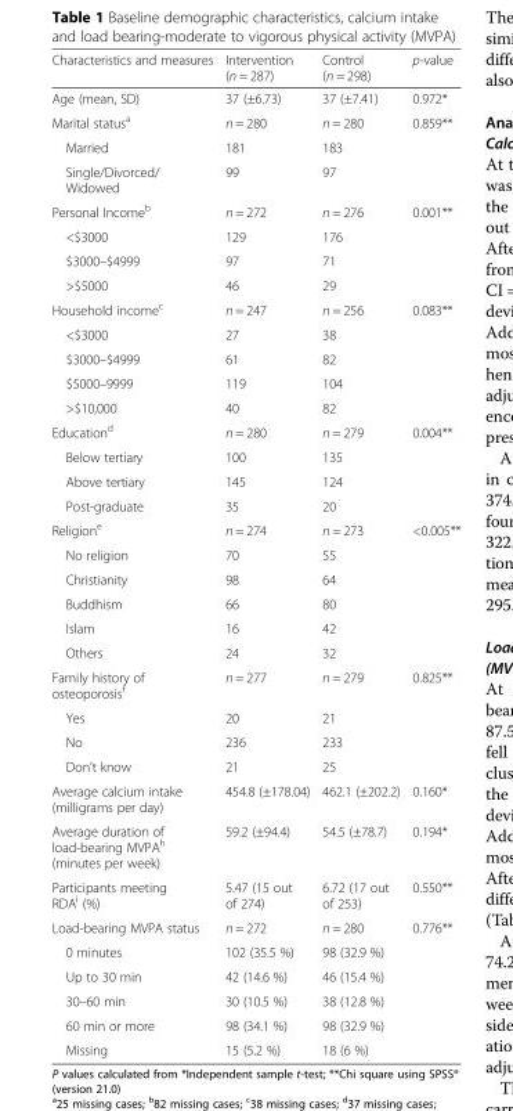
<table><thead><tr><td>Characteristics and measures</td><td>Intervention (n = 287)</td><td>Control (n = 298)</td><td>p-value</td></tr></thead><tbody><tr><td>Age (mean, SD)</td><td>37 (±6.73)</td><td>37 (±7.41)</td><td>0.972*</td></tr><tr><td>Marital status<sup>a</sup></td><td>n = 280</td><td>n = 280</td><td rowspan="3">0.859**</td></tr><tr><td>Married</td><td>181</td><td>183</td></tr><tr><td>Single/Divorced/ Widowed</td><td>99</td><td>97</td></tr><tr><td>Personal Income<sup>b</sup></td><td>n = 272</td><td>n = 276</td><td rowspan="4">0.001**</td></tr><tr><td>&lt;$3000</td><td>129</td><td>176</td></tr><tr><td>$3000–$4999</td><td>97</td><td>71</td></tr><tr><td>&gt;$5000</td><td>46</td><td>29</td></tr><tr><td>Household income<sup>c</sup></td><td>n = 247</td><td>n = 256</td><td rowspan="5">0.083**</td></tr><tr><td>&lt;$3000</td><td>27</td><td>38</td></tr><tr><td>$3000–$4999</td><td>61</td><td>82</td></tr><tr><td>$5000–9999</td><td>119</td><td>104</td></tr><tr><td>&gt;$10,000</td><td>40</td><td>82</td></tr><tr><td>Education<sup>d</sup></td><td>n = 280</td><td>n = 279</td><td rowspan="4">0.004**</td></tr><tr><td>Below tertiary</td><td>100</td><td>135</td></tr><tr><td>Above tertiary</td><td>145</td><td>124</td></tr><tr><td>Post-graduate</td><td>35</td><td>20</td></tr><tr><td>Religion<sup>e</sup></td><td>n = 274</td><td>n = 273</td><td rowspan="6">&lt;0.005**</td></tr><tr><td>No religion</td><td>70</td><td>55</td></tr><tr><td>Christianity</td><td>98</td><td>64</td></tr><tr><td>Buddhism</td><td>66</td><td>80</td></tr><tr><td>Islam</td><td>16</td><td>42</td></tr><tr><td>Others</td><td>24</td><td>32</td></tr><tr><td>Family history of osteoporosis<sup>f</sup></td><td>n = 277</td><td>n = 279</td><td rowspan="4">0.825**</td></tr><tr><td>Yes</td><td>20</td><td>21</td></tr><tr><td>No</td><td>236</td><td>233</td></tr><tr><td>Don’t know</td><td>21</td><td>25</td></tr><tr><td>Average calcium intake (milligrams per day)</td><td>454.8 (±178.04)</td><td>462.1 (±202.2)</td><td>0.160*</td></tr><tr><td>Average duration of load-bearing MVPA<sup>h</sup> (minutes per week)</td><td>59.2 (±94.4)</td><td>54.5 (±78.7)</td><td>0.194*</td></tr><tr><td>Participants meeting RDA<sup>i</sup> (%)</td><td>5.47 (15 out of 274)</td><td>6.72 (17 out of 253)</td><td>0.550**</td></tr><tr><td>Load-bearing MVPA status</td><td>n = 272</td><td>n = 280</td><td rowspan="6">0.776**</td></tr><tr><td>0 minutes</td><td>102 (35.5 %)</td><td>98 (32.9 %)</td></tr><tr><td>Up to 30 min</td><td>42 (14.6 %)</td><td>46 (15.4 %)</td></tr><tr><td>30–60 min</td><td>30 (10.5 %)</td><td>38 (12.8 %)</td></tr><tr><td>60 min or more</td><td>98 (34.1 %)</td><td>98 (32.9 %)</td></tr><tr><td>Missing</td><td>15 (5.2 %)</td><td>18 (6 %)</td></tr></tbody></table>